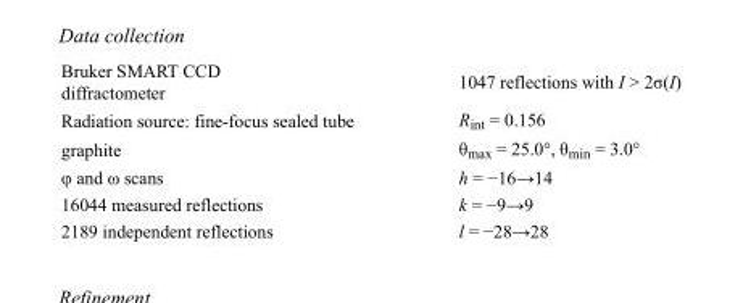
<table><tbody><tr><td>Bruker SMART CCD diffractometer</td><td>1047 reflections with I &gt; 2σ(I)</td></tr><tr><td>Radiation source: fine-focus sealed tube</td><td>R<sub>int</sub> = 0.156</td></tr><tr><td>graphite</td><td>θ<sub>max</sub> = 25.0°, θ<sub>min</sub> = 3.0°</td></tr><tr><td>φ and ω scans</td><td>h = −16→14</td></tr><tr><td>16044 measured reflections</td><td>k = −9→9</td></tr><tr><td>2189 independent reflections</td><td>l = −28→28</td></tr></tbody></table>